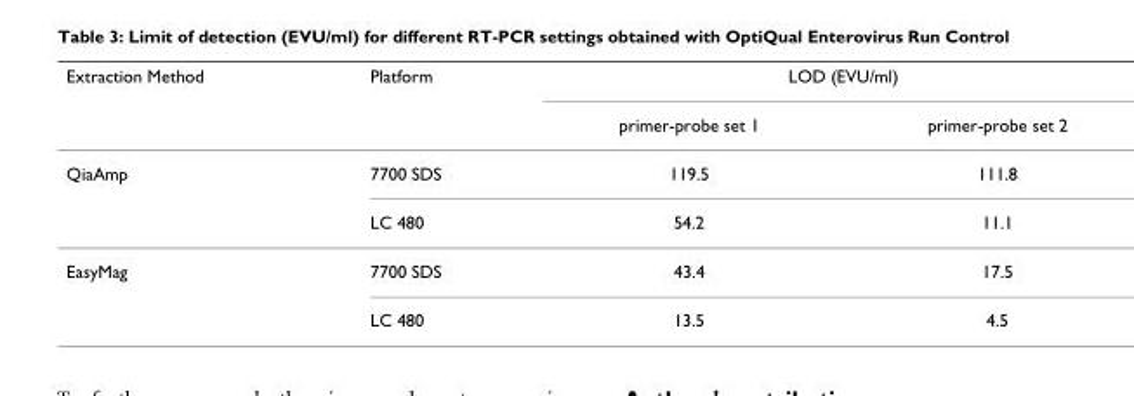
<table><thead><tr><td rowspan="2">Extraction Method</td><td rowspan="2">Platform</td><td colspan="2">LOD (EVU/ml)</td></tr><tr><td>primer-probe set 1</td><td>primer-probe set 2</td></tr></thead><tbody><tr><td rowspan="2">QiaAmp</td><td>7700 SDS</td><td>119.5</td><td>111.8</td></tr><tr><td>LC 480</td><td>54.2</td><td>11.1</td></tr><tr><td rowspan="2">EasyMag</td><td>7700 SDS</td><td>43.4</td><td>17.5</td></tr><tr><td>LC 480</td><td>13.5</td><td>4.5</td></tr></tbody></table>